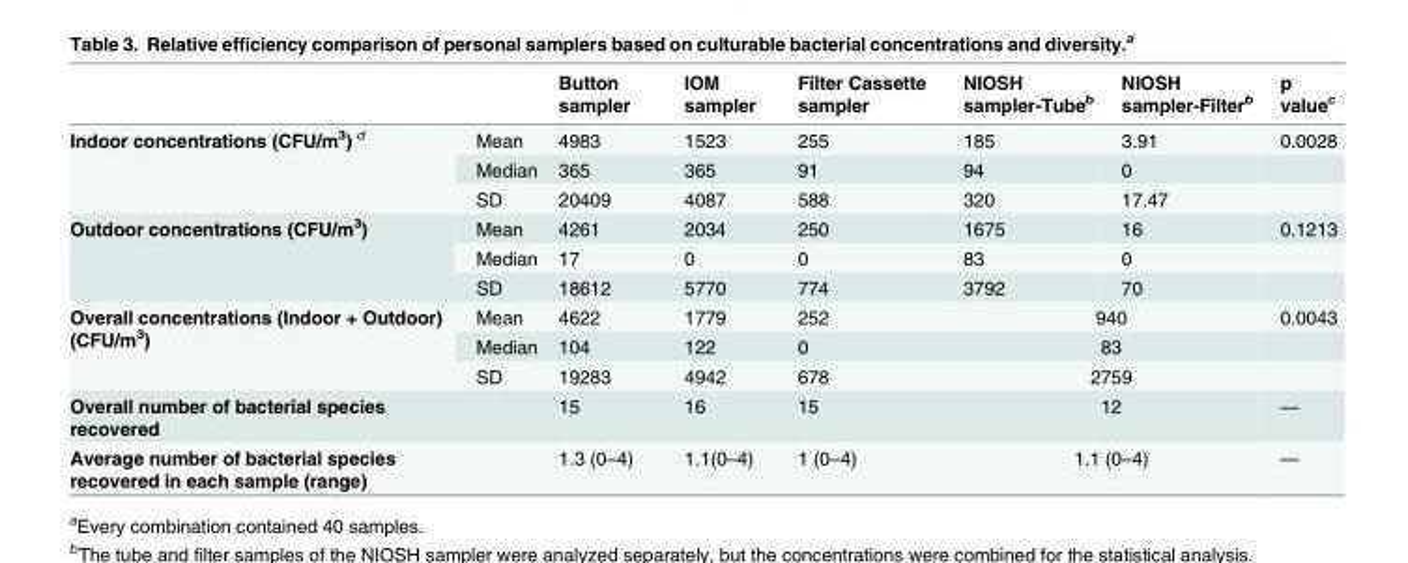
<table><thead><tr><td></td><td></td><td>Button sampler</td><td>IOM sampler</td><td>Filter Cassette sampler</td><td>NIOSH sampler-Tube<sup>b</sup></td><td>NIOSH sampler-Filter<sup>b</sup></td><td>p value<sup>c</sup></td></tr></thead><tbody><tr><td rowspan="3">Indoor concentrations (CFU/m<sup>3</sup>) <sup>d</sup></td><td>Mean</td><td>4983</td><td>1523</td><td>255</td><td>185</td><td>3.91</td><td>0.0028</td></tr><tr><td>Median</td><td>365</td><td>365</td><td>91</td><td>94</td><td>0</td><td></td></tr><tr><td>SD</td><td>20409</td><td>4087</td><td>588</td><td>320</td><td>17.47</td><td></td></tr><tr><td rowspan="3">Outdoor concentrations (CFU/m<sup>3</sup>)</td><td>Mean</td><td>4261</td><td>2034</td><td>250</td><td>1675</td><td>16</td><td>0.1213</td></tr><tr><td>Median</td><td>17</td><td>0</td><td>0</td><td>83</td><td>0</td><td></td></tr><tr><td>SD</td><td>18612</td><td>5770</td><td>774</td><td>3792</td><td>70</td><td></td></tr><tr><td rowspan="3">Overall concentrations (Indoor + Outdoor) (CFU/m<sup>3</sup>)</td><td>Mean</td><td>4622</td><td>1779</td><td>252</td><td colspan="2">940</td><td>0.0043</td></tr><tr><td>Median</td><td>104</td><td>122</td><td>0</td><td colspan="2">83</td><td></td></tr><tr><td>SD</td><td>19283</td><td>4942</td><td>678</td><td colspan="2">2759</td><td></td></tr><tr><td>Overall number of bacterial species recovered</td><td></td><td>15</td><td>16</td><td>15</td><td colspan="2">12</td><td>—</td></tr><tr><td>Average number of bacterial species recovered in each sample (range)</td><td></td><td>1.3 (0–4)</td><td>1.1(0–4)</td><td>1 (0–4)</td><td colspan="2">1.1 (0–4)</td><td>—</td></tr></tbody></table>